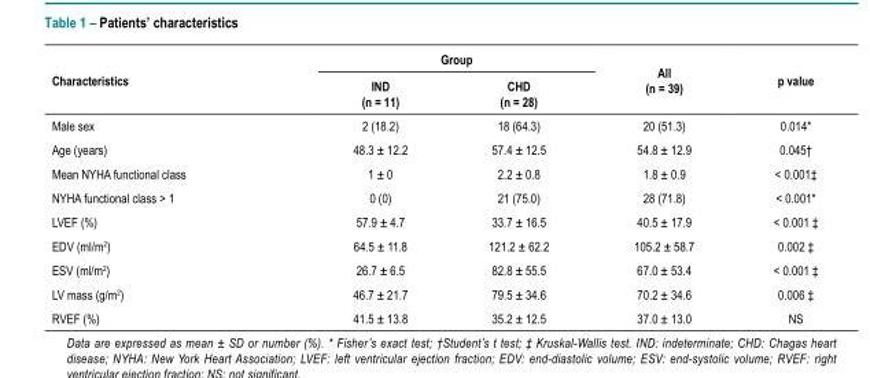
<table><thead><tr><td rowspan="2">Characteristics</td><td colspan="2">Group</td><td rowspan="2">All (n = 39)</td><td rowspan="2">p value</td></tr><tr><td>IND (n = 11)</td><td>CHD (n = 28)</td></tr></thead><tbody><tr><td>Male sex</td><td>2 (18.2)</td><td>18 (64.3)</td><td>20 (51.3)</td><td>0.014*</td></tr><tr><td>Age (years)</td><td>48.3 ± 12.2</td><td>57.4 ± 12.5</td><td>54.8 ± 12.9</td><td>0.045†</td></tr><tr><td>Mean NYHA functional class</td><td>1 ± 0</td><td>2.2 ± 0.8</td><td>1.8 ± 0.9</td><td>&lt; 0.001‡</td></tr><tr><td>NYHA functional class &gt; 1</td><td>0 (0)</td><td>21 (75.0)</td><td>28 (71.8)</td><td>&lt; 0.001*</td></tr><tr><td>LVEF (%)</td><td>57.9 ± 4.7</td><td>33.7 ± 16.5</td><td>40.5 ± 17.9</td><td>&lt; 0.001 ‡</td></tr><tr><td>EDV (ml/m<sup>2</sup>)</td><td>64.5 ± 11.8</td><td>121.2 ± 62.2</td><td>105.2 ± 58.7</td><td>0.002 ‡</td></tr><tr><td>ESV (ml/m<sup>2</sup>)</td><td>26.7 ± 6.5</td><td>82.8 ± 55.5</td><td>67.0 ± 53.4</td><td>&lt; 0.001 ‡</td></tr><tr><td>LV mass (g/m<sup>2</sup>)</td><td>46.7 ± 21.7</td><td>79.5 ± 34.6</td><td>70.2 ± 34.6</td><td>0.006 ‡</td></tr><tr><td>RVEF (%)</td><td>41.5 ± 13.8</td><td>35.2 ± 12.5</td><td>37.0 ± 13.0</td><td>NS</td></tr></tbody></table>